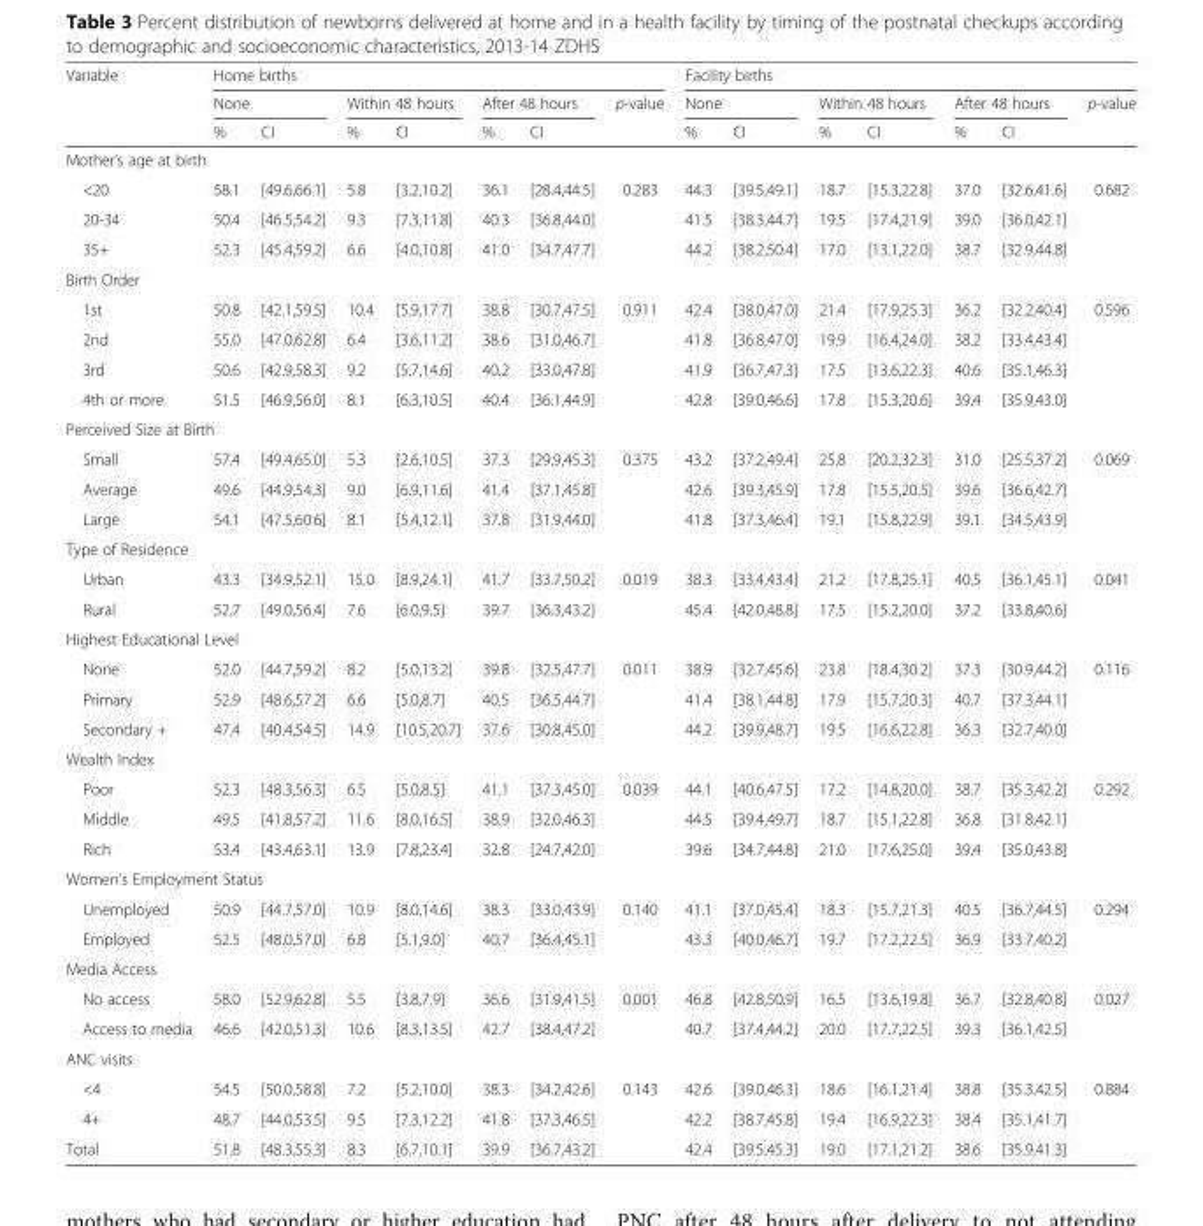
<table><thead><tr><td rowspan="3">Variable</td><td colspan="7">Home births</td><td colspan="7">Facility births</td></tr><tr><td colspan="2">None</td><td colspan="2">Within 48 hours</td><td colspan="2">After 48 hours</td><td rowspan="2">p-value</td><td colspan="2">None</td><td colspan="2">Within 48 hours</td><td colspan="2">After 48 hours</td><td rowspan="2">p-value</td></tr><tr><td>%</td><td>CI</td><td>%</td><td>CI</td><td>%</td><td>CI</td><td>%</td><td>CI</td><td>%</td><td>CI</td><td>%</td><td>CI</td></tr></thead><tbody><tr><td colspan="15">Mother’s age at birth</td></tr><tr><td>&lt;20</td><td>58.1</td><td>[49.6,66.1]</td><td>5.8</td><td>[3.2,10.2]</td><td>36.1</td><td>[28.4,44.5]</td><td rowspan="3">0.283</td><td>44.3</td><td>[39.5,49.1]</td><td>18.7</td><td>[15.3,22.8]</td><td>37.0</td><td>[32.6,41.6]</td><td rowspan="3">0.682</td></tr><tr><td>20-34</td><td>50.4</td><td>[46.5,54.2]</td><td>9.3</td><td>[7.3,11.8]</td><td>40.3</td><td>[36.8,44.0]</td><td>41.5</td><td>[38.3,44.7]</td><td>19.5</td><td>[17.4,21.9]</td><td>39.0</td><td>[36.0,42.1]</td></tr><tr><td>35+</td><td>52.3</td><td>[45.4,59.2]</td><td>6.6</td><td>[4.0,10.8]</td><td>41.0</td><td>[34.7,47.7]</td><td>44.2</td><td>[38.2,50.4]</td><td>17.0</td><td>[13.1,22.0]</td><td>38.7</td><td>[32.9,44.8]</td></tr><tr><td colspan="15">Birth Order</td></tr><tr><td>1st</td><td>50.8</td><td>[42.1,59.5]</td><td>10.4</td><td>[5.9,17.7]</td><td>38.8</td><td>[30.7,47.5]</td><td rowspan="4">0.911</td><td>42.4</td><td>[38.0,47.0]</td><td>21.4</td><td>[17.9,25.3]</td><td>36.2</td><td>[32.2,40.4]</td><td rowspan="4">0.596</td></tr><tr><td>2nd</td><td>55.0</td><td>[47.0,62.8]</td><td>6.4</td><td>[3.6,11.2]</td><td>38.6</td><td>[31.0,46.7]</td><td>41.8</td><td>[36.8,47.0]</td><td>19.9</td><td>[16.4,24.0]</td><td>38.2</td><td>[33.4,43.4]</td></tr><tr><td>3rd</td><td>50.6</td><td>[42.9,58.3]</td><td>9.2</td><td>[5.7,14.6]</td><td>40.2</td><td>[33.0,47.8]</td><td>41.9</td><td>[36.7,47.3]</td><td>17.5</td><td>[13.6,22.3]</td><td>40.6</td><td>[35.1,46.3]</td></tr><tr><td>4th or more</td><td>51.5</td><td>[46.9,56.0]</td><td>8.1</td><td>[6.3,10.5]</td><td>40.4</td><td>[36.1,44.9]</td><td>42.8</td><td>[39.0,46.6]</td><td>17.8</td><td>[15.3,20.6]</td><td>39.4</td><td>[35.9,43.0]</td></tr><tr><td colspan="15">Perceived Size at Birth</td></tr><tr><td>Small</td><td>57.4</td><td>[49.4,65.0]</td><td>5.3</td><td>[2.6,10.5]</td><td>37.3</td><td>[29.9,45.3]</td><td rowspan="3">0.375</td><td>43.2</td><td>[37.2,49.4]</td><td>25.8</td><td>[20.2,32.3]</td><td>31.0</td><td>[25.5,37.2]</td><td rowspan="3">0.069</td></tr><tr><td>Average</td><td>49.6</td><td>[44.9,54.3]</td><td>9.0</td><td>[6.9,11.6]</td><td>41.4</td><td>[37.1,45.8]</td><td>42.6</td><td>[39.3,45.9]</td><td>17.8</td><td>[15.5,20.5]</td><td>39.6</td><td>[36.6,42.7]</td></tr><tr><td>Large</td><td>54.1</td><td>[47.5,60.6]</td><td>8.1</td><td>[5.4,12.1]</td><td>37.8</td><td>[31.9,44.0]</td><td>41.8</td><td>[37.3,46.4]</td><td>19.1</td><td>[15.8,22.9]</td><td>39.1</td><td>[34.5,43.9]</td></tr><tr><td colspan="15">Type of Residence</td></tr><tr><td>Urban</td><td>43.3</td><td>[34.9,52.1]</td><td>15.0</td><td>[8.9,24.1]</td><td>41.7</td><td>[33.7,50.2]</td><td rowspan="2">0.019</td><td>38.3</td><td>[33.4,43.4]</td><td>21.2</td><td>[17.8,25.1]</td><td>40.5</td><td>[36.1,45.1]</td><td rowspan="2">0.041</td></tr><tr><td>Rural</td><td>52.7</td><td>[49.0,56.4]</td><td>7.6</td><td>[6.0,9.5]</td><td>39.7</td><td>[36.3,43.2]</td><td>45.4</td><td>[42.0,48.8]</td><td>17.5</td><td>[15.2,20.0]</td><td>37.2</td><td>[33.8,40.6]</td></tr><tr><td colspan="15">Highest Educational Level</td></tr><tr><td>None</td><td>52.0</td><td>[44.7,59.2]</td><td>8.2</td><td>[5.0,13.2]</td><td>39.8</td><td>[32.5,47.7]</td><td rowspan="3">0.011</td><td>38.9</td><td>[32.7,45.6]</td><td>23.8</td><td>[18.4,30.2]</td><td>37.3</td><td>[30.9,44.2]</td><td rowspan="3">0.116</td></tr><tr><td>Primary</td><td>52.9</td><td>[48.6,57.2]</td><td>6.6</td><td>[5.0,8.7]</td><td>40.5</td><td>[36.5,44.7]</td><td>41.4</td><td>[38.1,44.8]</td><td>17.9</td><td>[15.7,20.3]</td><td>40.7</td><td>[37.3,44.1]</td></tr><tr><td>Secondary +</td><td>47.4</td><td>[40.4,54.5]</td><td>14.9</td><td>[10.5,20.7]</td><td>37.6</td><td>[30.8,45.0]</td><td>44.2</td><td>[39.9,48.7]</td><td>19.5</td><td>[16.6,22.8]</td><td>36.3</td><td>[32.7,40.0]</td></tr><tr><td colspan="15">Wealth Index</td></tr><tr><td>Poor</td><td>52.3</td><td>[48.3,56.3]</td><td>6.5</td><td>[5.0,8.5]</td><td>41.1</td><td>[37.3,45.0]</td><td rowspan="3">0.039</td><td>44.1</td><td>[40.6,47.5]</td><td>17.2</td><td>[14.8,20.0]</td><td>38.7</td><td>[35.3,42.2]</td><td rowspan="3">0.292</td></tr><tr><td>Middle</td><td>49.5</td><td>[41.8,57.2]</td><td>11.6</td><td>[8.0,16.5]</td><td>38.9</td><td>[32.0,46.3]</td><td>44.5</td><td>[39.4,49.7]</td><td>18.7</td><td>[15.1,22.8]</td><td>36.8</td><td>[31.8,42.1]</td></tr><tr><td>Rich</td><td>53.4</td><td>[43.4,63.1]</td><td>13.9</td><td>[7.8,23.4]</td><td>32.8</td><td>[24.7,42.0]</td><td>39.6</td><td>[34.7,44.8]</td><td>21.0</td><td>[17.6,25.0]</td><td>39.4</td><td>[35.0,43.8]</td></tr><tr><td colspan="15">Women’s Employment Status</td></tr><tr><td>Unemployed</td><td>50.9</td><td>[44.7,57.0]</td><td>10.9</td><td>[8.0,14.6]</td><td>38.3</td><td>[33.0,43.9]</td><td rowspan="2">0.140</td><td>41.1</td><td>[37.0,45.4]</td><td>18.3</td><td>[15.7,21.3]</td><td>40.5</td><td>[36.7,44.5]</td><td rowspan="2">0.294</td></tr><tr><td>Employed</td><td>52.5</td><td>[48.0,57.0]</td><td>6.8</td><td>[5.1,9.0]</td><td>40.7</td><td>[36.4,45.1]</td><td>43.3</td><td>[40.0,46.7]</td><td>19.7</td><td>[17.2,22.5]</td><td>36.9</td><td>[33.7,40.2]</td></tr><tr><td colspan="15">Media Access</td></tr><tr><td>No access</td><td>58.0</td><td>[52.9,62.8]</td><td>5.5</td><td>[3.8,7.9]</td><td>36.6</td><td>[31.9,41.5]</td><td rowspan="2">0.001</td><td>46.8</td><td>[42.8,50.9]</td><td>16.5</td><td>[13.6,19.8]</td><td>36.7</td><td>[32.8,40.8]</td><td rowspan="2">0.027</td></tr><tr><td>Access to media</td><td>46.6</td><td>[42.0,51.3]</td><td>10.6</td><td>[8.3,13.5]</td><td>42.7</td><td>[38.4,47.2]</td><td>40.7</td><td>[37.4,44.2]</td><td>20.0</td><td>[17.7,22.5]</td><td>39.3</td><td>[36.1,42.5]</td></tr><tr><td colspan="15">ANC visits</td></tr><tr><td>&lt;4</td><td>54.5</td><td>[50.0,58.8]</td><td>7.2</td><td>[5.2,10.0]</td><td>38.3</td><td>[34.2,42.6]</td><td rowspan="2">0.143</td><td>42.6</td><td>[39.0,46.3]</td><td>18.6</td><td>[16.1,21.4]</td><td>38.8</td><td>[35.3,42.5]</td><td rowspan="2">0.884</td></tr><tr><td>4+</td><td>48.7</td><td>[44.0,53.5]</td><td>9.5</td><td>[7.3,12.2]</td><td>41.8</td><td>[37.3,46.5]</td><td>42.2</td><td>[38.7,45.8]</td><td>19.4</td><td>[16.9,22.3]</td><td>38.4</td><td>[35.1,41.7]</td></tr><tr><td>Total</td><td>51.8</td><td>[48.3,55.3]</td><td>8.3</td><td>[6.7,10.1]</td><td>39.9</td><td>[36.7,43.2]</td><td></td><td>42.4</td><td>[39.5,45.3]</td><td>19.0</td><td>[17.1,21.2]</td><td>38.6</td><td>[35.9,41.3]</td><td></td></tr></tbody></table>